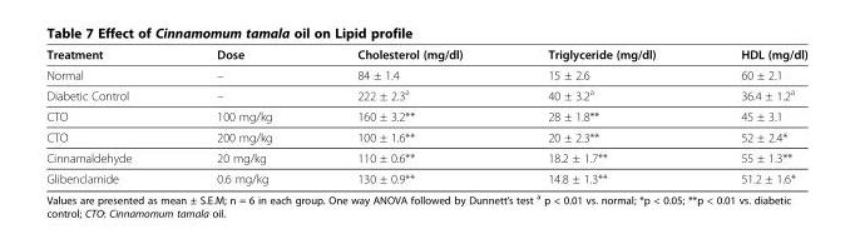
<table><thead><tr><td>Treatment</td><td>Dose</td><td>Cholesterol (mg/dl)</td><td>Triglyceride (mg/dl)</td><td>HDL (mg/dl)</td></tr></thead><tbody><tr><td>Normal</td><td>–</td><td>84 ± 1.4</td><td>15 ± 2.6</td><td>60 ± 2.1</td></tr><tr><td>Diabetic Control</td><td>–</td><td>222 ± 2.3<sup>a</sup></td><td>40 ± 3.2<sup>a</sup></td><td>36.4 ± 1.2<sup>a</sup></td></tr><tr><td>CTO</td><td>100 mg/kg</td><td>160 ± 3.2**</td><td>28 ± 1.8**</td><td>45 ± 3.1</td></tr><tr><td>CTO</td><td>200 mg/kg</td><td>100 ± 1.6**</td><td>20 ± 2.3**</td><td>52 ± 2.4*</td></tr><tr><td>Cinnamaldehyde</td><td>20 mg/kg</td><td>110 ± 0.6**</td><td>18.2 ± 1.7**</td><td>55 ± 1.3**</td></tr><tr><td>Glibenclamide</td><td>0.6 mg/kg</td><td>130 ± 0.9**</td><td>14.8 ± 1.3**</td><td>51.2 ± 1.6*</td></tr></tbody></table>